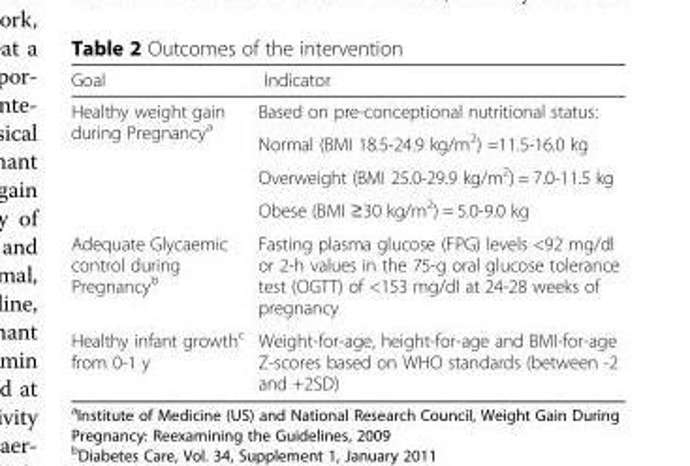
<table><thead><tr><td>Goal</td><td>Indicator</td></tr></thead><tbody><tr><td rowspan="4">Healthy weight gain during Pregnancy<sup>a</sup></td><td>Based on pre-conceptional nutritional status:</td></tr><tr><td>Normal (BMI 18.5-24.9 kg/m<sup>2</sup>) =11.5-16.0 kg</td></tr><tr><td>Overweight (BMI 25.0-29.9 kg/m<sup>2</sup>) = 7.0-11.5 kg</td></tr><tr><td>Obese (BMI ≥30 kg/m<sup>2</sup>) = 5.0-9.0 kg</td></tr><tr><td>Adequate Glycaemic control during Pregnancy<sup>b</sup></td><td>Fasting plasma glucose (FPG) levels &lt;92 mg/dl or 2-h values in the 75-g oral glucose tolerance test (OGTT) of &lt;153 mg/dl at 24-28 weeks of pregnancy</td></tr><tr><td>Healthy infant growth<sup>c</sup> from 0-1 y</td><td>Weight-for-age, height-for-age and BMI-for-age Z-scores based on WHO standards (between -2 and +2SD)</td></tr></tbody></table>